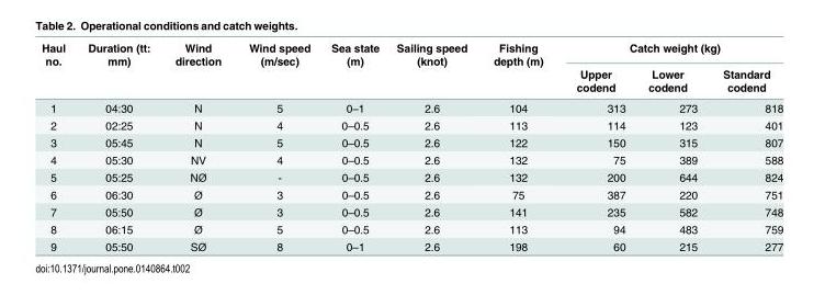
<table><thead><tr><td rowspan="2">Haul no.</td><td rowspan="2">Duration (tt: mm)</td><td rowspan="2">Wind direction</td><td rowspan="2">Wind speed (m/sec)</td><td rowspan="2">Sea state (m)</td><td rowspan="2">Sailing speed (knot)</td><td rowspan="2">Fishing depth (m)</td><td colspan="3">Catch weight (kg)</td></tr><tr><td>Upper codend</td><td>Lower codend</td><td>Standard codend</td></tr></thead><tbody><tr><td>1</td><td>04:30</td><td>N</td><td>5</td><td>0–1</td><td>2.6</td><td>104</td><td>313</td><td>273</td><td>818</td></tr><tr><td>2</td><td>02:25</td><td>N</td><td>4</td><td>0–0.5</td><td>2.6</td><td>113</td><td>114</td><td>123</td><td>401</td></tr><tr><td>3</td><td>05:45</td><td>N</td><td>5</td><td>0–0.5</td><td>2.6</td><td>122</td><td>150</td><td>315</td><td>807</td></tr><tr><td>4</td><td>05:30</td><td>NV</td><td>4</td><td>0–0.5</td><td>2.6</td><td>132</td><td>75</td><td>389</td><td>588</td></tr><tr><td>5</td><td>05:25</td><td>NØ</td><td>-</td><td>0–0.5</td><td>2.6</td><td>132</td><td>200</td><td>644</td><td>824</td></tr><tr><td>6</td><td>06:30</td><td>Ø</td><td>3</td><td>0–0.5</td><td>2.6</td><td>75</td><td>387</td><td>220</td><td>751</td></tr><tr><td>7</td><td>05:50</td><td>Ø</td><td>3</td><td>0–0.5</td><td>2.6</td><td>141</td><td>235</td><td>582</td><td>748</td></tr><tr><td>8</td><td>06:15</td><td>Ø</td><td>5</td><td>0–0.5</td><td>2.6</td><td>113</td><td>94</td><td>483</td><td>759</td></tr><tr><td>9</td><td>05:50</td><td>SØ</td><td>8</td><td>0–1</td><td>2.6</td><td>198</td><td>60</td><td>215</td><td>277</td></tr></tbody></table>